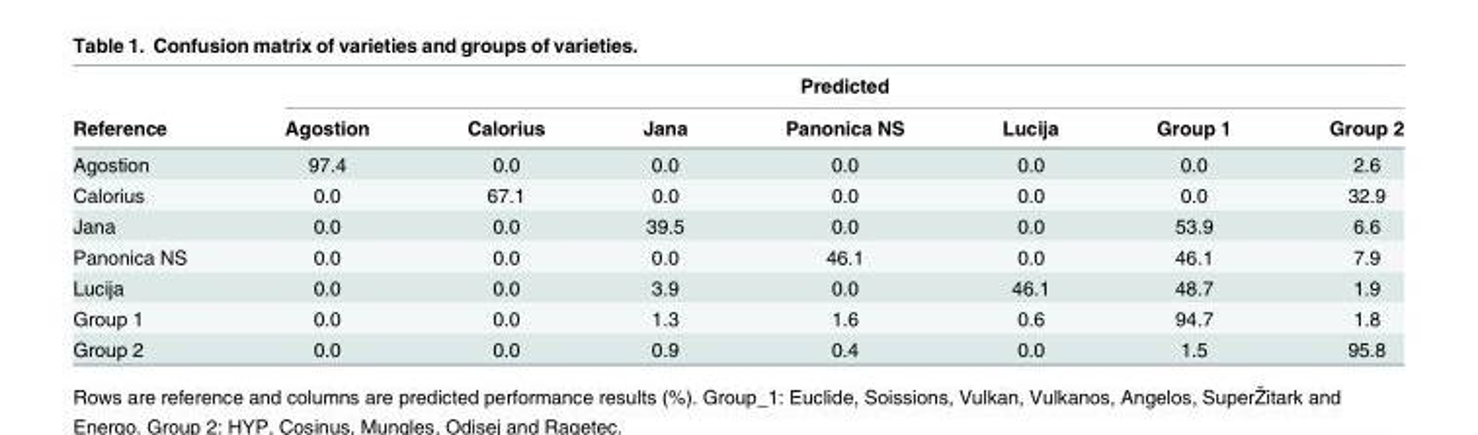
<table><thead><tr><td rowspan="2">Reference</td><td colspan="7">Predicted</td></tr><tr><td>Agostion</td><td>Calorius</td><td>Jana</td><td>Panonica NS</td><td>Lucija</td><td>Group 1</td><td>Group 2</td></tr></thead><tbody><tr><td>Agostion</td><td>97.4</td><td>0.0</td><td>0.0</td><td>0.0</td><td>0.0</td><td>0.0</td><td>2.6</td></tr><tr><td>Calorius</td><td>0.0</td><td>67.1</td><td>0.0</td><td>0.0</td><td>0.0</td><td>0.0</td><td>32.9</td></tr><tr><td>Jana</td><td>0.0</td><td>0.0</td><td>39.5</td><td>0.0</td><td>0.0</td><td>53.9</td><td>6.6</td></tr><tr><td>Panonica NS</td><td>0.0</td><td>0.0</td><td>0.0</td><td>46.1</td><td>0.0</td><td>46.1</td><td>7.9</td></tr><tr><td>Lucija</td><td>0.0</td><td>0.0</td><td>3.9</td><td>0.0</td><td>46.1</td><td>48.7</td><td>1.9</td></tr><tr><td>Group 1</td><td>0.0</td><td>0.0</td><td>1.3</td><td>1.6</td><td>0.6</td><td>94.7</td><td>1.8</td></tr><tr><td>Group 2</td><td>0.0</td><td>0.0</td><td>0.9</td><td>0.4</td><td>0.0</td><td>1.5</td><td>95.8</td></tr></tbody></table>